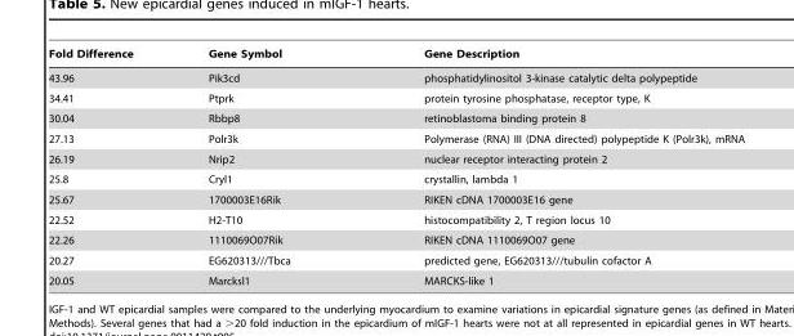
<table><thead><tr><td>Fold Difference</td><td>Gene Symbol</td><td>Gene Description</td></tr></thead><tbody><tr><td>43.96</td><td>Pik3cd</td><td>phosphatidylinositol 3-kinase catalytic delta polypeptide</td></tr><tr><td>34.41</td><td>Ptprk</td><td>protein tyrosine phosphatase, receptor type, K</td></tr><tr><td>30.04</td><td>Rbbp8</td><td>retinoblastoma binding protein 8</td></tr><tr><td>27.13</td><td>Polr3k</td><td>Polymerase (RNA) III (DNA directed) polypeptide K (Polr3k), mRNA</td></tr><tr><td>26.19</td><td>Nrip2</td><td>nuclear receptor interacting protein 2</td></tr><tr><td>25.8</td><td>Cryl1</td><td>crystallin, lambda 1</td></tr><tr><td>25.67</td><td>1700003E16Rik</td><td>RIKEN cDNA 1700003E16 gene</td></tr><tr><td>22.52</td><td>H2-T10</td><td>histocompatibility 2, T region locus 10</td></tr><tr><td>22.26</td><td>1110069O07Rik</td><td>RIKEN cDNA 1110069O07 gene</td></tr><tr><td>20.27</td><td>EG620313///Tbca</td><td>predicted gene, EG620313///tubulin cofactor A</td></tr><tr><td>20.05</td><td>Marcksl1</td><td>MARCKS-like 1</td></tr></tbody></table>